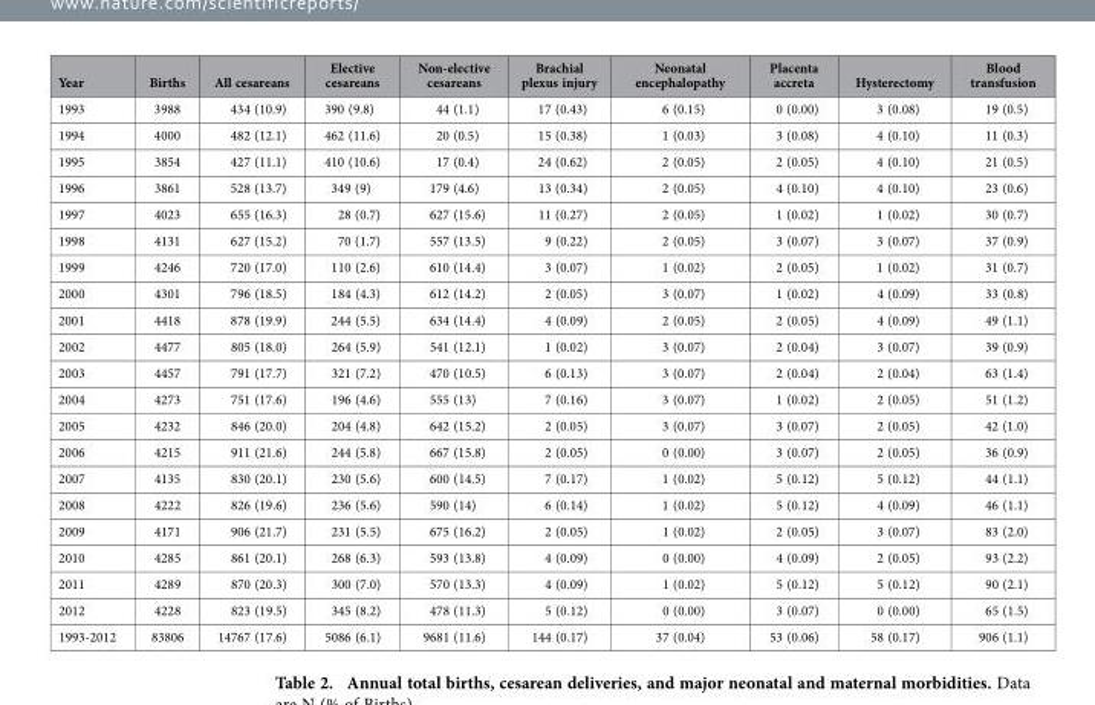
<table><thead><tr><td>Year</td><td>Births</td><td>All cesareans</td><td>Elective cesareans</td><td>Non-elective cesareans</td><td>Brachial plexus injury</td><td>Neonatal encephalopathy</td><td>Placenta accreta</td><td>Hysterectomy</td><td>Blood transfusion</td></tr></thead><tbody><tr><td>1993</td><td>3988</td><td>434 (10.9)</td><td>390 (9.8)</td><td>44 (1.1)</td><td>17 (0.43)</td><td>6 (0.15)</td><td>0 (0.00)</td><td>3 (0.08)</td><td>19 (0.5)</td></tr><tr><td>1994</td><td>4000</td><td>482 (12.1)</td><td>462 (11.6)</td><td>20 (0.5)</td><td>15 (0.38)</td><td>1 (0.03)</td><td>3 (0.08)</td><td>4 (0.10)</td><td>11 (0.3)</td></tr><tr><td>1995</td><td>3854</td><td>427 (11.1)</td><td>410 (10.6)</td><td>17 (0.4)</td><td>24 (0.62)</td><td>2 (0.05)</td><td>2 (0.05)</td><td>4 (0.10)</td><td>21 (0.5)</td></tr><tr><td>1996</td><td>3861</td><td>528 (13.7)</td><td>349 (9)</td><td>179 (4.6)</td><td>13 (0.34)</td><td>2 (0.05)</td><td>4 (0.10)</td><td>4 (0.10)</td><td>23 (0.6)</td></tr><tr><td>1997</td><td>4023</td><td>655 (16.3)</td><td>28 (0.7)</td><td>627 (15.6)</td><td>11 (0.27)</td><td>2 (0.05)</td><td>1 (0.02)</td><td>1 (0.02)</td><td>30 (0.7)</td></tr><tr><td>1998</td><td>4131</td><td>627 (15.2)</td><td>70 (1.7)</td><td>557 (13.5)</td><td>9 (0.22)</td><td>2 (0.05)</td><td>3 (0.07)</td><td>3 (0.07)</td><td>37 (0.9)</td></tr><tr><td>1999</td><td>4246</td><td>720 (17.0)</td><td>110 (2.6)</td><td>610 (14.4)</td><td>3 (0.07)</td><td>1 (0.02)</td><td>2 (0.05)</td><td>1 (0.02)</td><td>31 (0.7)</td></tr><tr><td>2000</td><td>4301</td><td>796 (18.5)</td><td>184 (4.3)</td><td>612 (14.2)</td><td>2 (0.05)</td><td>3 (0.07)</td><td>1 (0.02)</td><td>4 (0.09)</td><td>33 (0.8)</td></tr><tr><td>2001</td><td>4418</td><td>878 (19.9)</td><td>244 (5.5)</td><td>634 (14.4)</td><td>4 (0.09)</td><td>2 (0.05)</td><td>2 (0.05)</td><td>4 (0.09)</td><td>49 (1.1)</td></tr><tr><td>2002</td><td>4477</td><td>805 (18.0)</td><td>264 (5.9)</td><td>541 (12.1)</td><td>1 (0.02)</td><td>3 (0.07)</td><td>2 (0.04)</td><td>3 (0.07)</td><td>39 (0.9)</td></tr><tr><td>2003</td><td>4457</td><td>791 (17.7)</td><td>321 (7.2)</td><td>470 (10.5)</td><td>6 (0.13)</td><td>3 (0.07)</td><td>2 (0.04)</td><td>2 (0.04)</td><td>63 (1.4)</td></tr><tr><td>2004</td><td>4273</td><td>751 (17.6)</td><td>196 (4.6)</td><td>555 (13)</td><td>7 (0.16)</td><td>3 (0.07)</td><td>1 (0.02)</td><td>2 (0.05)</td><td>51 (1.2)</td></tr><tr><td>2005</td><td>4232</td><td>846 (20.0)</td><td>204 (4.8)</td><td>642 (15.2)</td><td>2 (0.05)</td><td>3 (0.07)</td><td>3 (0.07)</td><td>2 (0.05)</td><td>42 (1.0)</td></tr><tr><td>2006</td><td>4215</td><td>911 (21.6)</td><td>244 (5.8)</td><td>667 (15.8)</td><td>2 (0.05)</td><td>0 (0.00)</td><td>3 (0.07)</td><td>2 (0.05)</td><td>36 (0.9)</td></tr><tr><td>2007</td><td>4135</td><td>830 (20.1)</td><td>230 (5.6)</td><td>600 (14.5)</td><td>7 (0.17)</td><td>1 (0.02)</td><td>5 (0.12)</td><td>5 (0.12)</td><td>44 (1.1)</td></tr><tr><td>2008</td><td>4222</td><td>826 (19.6)</td><td>236 (5.6)</td><td>590 (14)</td><td>6 (0.14)</td><td>1 (0.02)</td><td>5 (0.12)</td><td>4 (0.09)</td><td>46 (1.1)</td></tr><tr><td>2009</td><td>4171</td><td>906 (21.7)</td><td>231 (5.5)</td><td>675 (16.2)</td><td>2 (0.05)</td><td>1 (0.02)</td><td>2 (0.05)</td><td>3 (0.07)</td><td>83 (2.0)</td></tr><tr><td>2010</td><td>4285</td><td>861 (20.1)</td><td>268 (6.3)</td><td>593 (13.8)</td><td>4 (0.09)</td><td>0 (0.00)</td><td>4 (0.09)</td><td>2 (0.05)</td><td>93 (2.2)</td></tr><tr><td>2011</td><td>4289</td><td>870 (20.3)</td><td>300 (7.0)</td><td>570 (13.3)</td><td>4 (0.09)</td><td>1 (0.02)</td><td>5 (0.12)</td><td>5 (0.12)</td><td>90 (2.1)</td></tr><tr><td>2012</td><td>4228</td><td>823 (19.5)</td><td>345 (8.2)</td><td>478 (11.3)</td><td>5 (0.12)</td><td>0 (0.00)</td><td>3 (0.07)</td><td>0 (0.00)</td><td>65 (1.5)</td></tr><tr><td>1993-2012</td><td>83806</td><td>14767 (17.6)</td><td>5086 (6.1)</td><td>9681 (11.6)</td><td>144 (0.17)</td><td>37 (0.04)</td><td>53 (0.06)</td><td>58 (0.17)</td><td>906 (1.1)</td></tr></tbody></table>